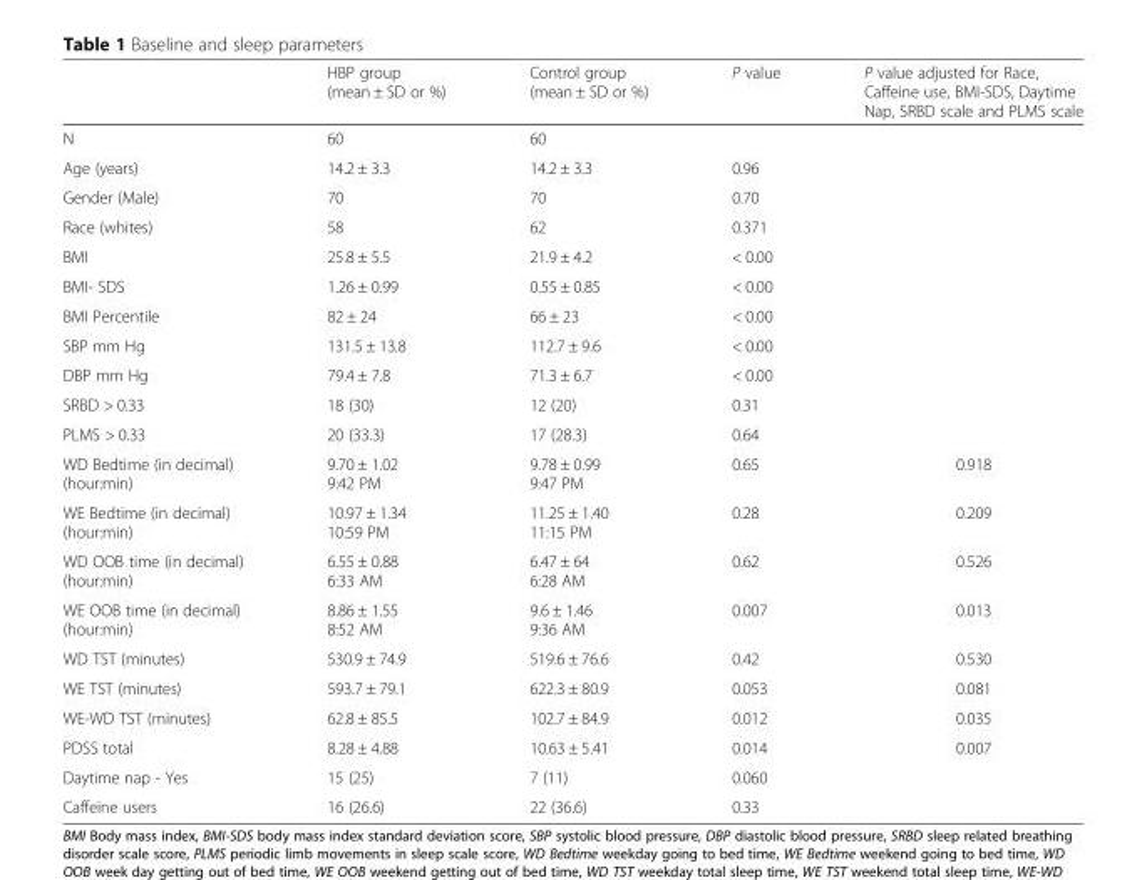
<table><thead><tr><td></td><td>HBP group (mean ± SD or %)</td><td>Control group (mean ± SD or %)</td><td>P value</td><td>P value adjusted for Race, Caffeine use, BMI-SDS, Daytime Nap, SRBD scale and PLMS scale</td></tr></thead><tbody><tr><td>N</td><td>60</td><td>60</td><td></td><td></td></tr><tr><td>Age (years)</td><td>14.2 ± 3.3</td><td>14.2 ± 3.3</td><td>0.96</td><td></td></tr><tr><td>Gender (Male)</td><td>70</td><td>70</td><td>0.70</td><td></td></tr><tr><td>Race (whites)</td><td>58</td><td>62</td><td>0.371</td><td></td></tr><tr><td>BMI</td><td>25.8 ± 5.5</td><td>21.9 ± 4.2</td><td>&lt; 0.00</td><td></td></tr><tr><td>BMI- SDS</td><td>1.26 ± 0.99</td><td>0.55 ± 0.85</td><td>&lt; 0.00</td><td></td></tr><tr><td>BMI Percentile</td><td>82 ± 24</td><td>66 ± 23</td><td>&lt; 0.00</td><td></td></tr><tr><td>SBP mm Hg</td><td>131.5 ± 13.8</td><td>112.7 ± 9.6</td><td>&lt; 0.00</td><td></td></tr><tr><td>DBP mm Hg</td><td>79.4 ± 7.8</td><td>71.3 ± 6.7</td><td>&lt; 0.00</td><td></td></tr><tr><td>SRBD &gt; 0.33</td><td>18 (30)</td><td>12 (20)</td><td>0.31</td><td></td></tr><tr><td>PLMS &gt; 0.33</td><td>20 (33.3)</td><td>17 (28.3)</td><td>0.64</td><td></td></tr><tr><td>WD Bedtime (in decimal) (hour:min)</td><td>9.70 ± 1.02 9:42 PM</td><td>9.78 ± 0.99 9:47 PM</td><td>0.65</td><td>0.918</td></tr><tr><td>WE Bedtime (in decimal) (hour:min)</td><td>10.97 ± 1.34 10:59 PM</td><td>11.25 ± 1.40 11:15 PM</td><td>0.28</td><td>0.209</td></tr><tr><td>WD OOB time (in decimal) (hour:min)</td><td>6.55 ± 0.88 6:33 AM</td><td>6.47 ± 64 6:28 AM</td><td>0.62</td><td>0.526</td></tr><tr><td>WE OOB time (in decimal) (hour:min)</td><td>8.86 ± 1.55 8:52 AM</td><td>9.6 ± 1.46 9:36 AM</td><td>0.007</td><td>0.013</td></tr><tr><td>WD TST (minutes)</td><td>530.9 ± 74.9</td><td>519.6 ± 76.6</td><td>0.42</td><td>0.530</td></tr><tr><td>WE TST (minutes)</td><td>593.7 ± 79.1</td><td>622.3 ± 80.9</td><td>0.053</td><td>0.081</td></tr><tr><td>WE-WD TST (minutes)</td><td>62.8 ± 85.5</td><td>102.7 ± 84.9</td><td>0.012</td><td>0.035</td></tr><tr><td>PDSS total</td><td>8.28 ± 4.88</td><td>10.63 ± 5.41</td><td>0.014</td><td>0.007</td></tr><tr><td>Daytime nap - Yes</td><td>15 (25)</td><td>7 (11)</td><td>0.060</td><td></td></tr><tr><td>Caffeine users</td><td>16 (26.6)</td><td>22 (36.6)</td><td>0.33</td><td></td></tr></tbody></table>